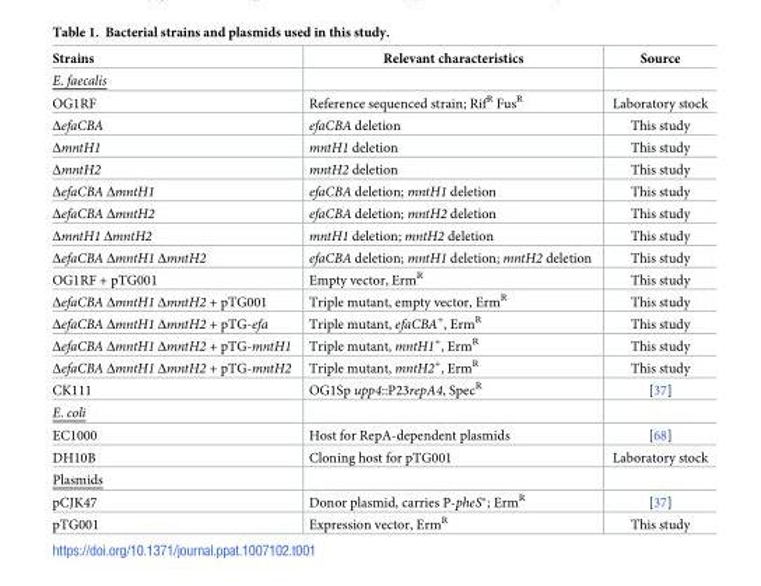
<table><thead><tr><td>Strains</td><td>Relevant characteristics</td><td>Source</td></tr></thead><tbody><tr><td colspan="3">E. faecalis</td></tr><tr><td>OG1RF</td><td>Reference sequenced strain; Rif<sup>R</sup> Fus<sup>R</sup></td><td>Laboratory stock</td></tr><tr><td>ΔefaCBA</td><td>efaCBA deletion</td><td>This study</td></tr><tr><td>ΔmntH1</td><td>mntH1 deletion</td><td>This study</td></tr><tr><td>ΔmntH2</td><td>mntH2 deletion</td><td>This study</td></tr><tr><td>ΔefaCBA ΔmntH1</td><td>efaCBA deletion; mntH1 deletion</td><td>This study</td></tr><tr><td>ΔefaCBA ΔmntH2</td><td>efaCBA deletion; mntH2 deletion</td><td>This study</td></tr><tr><td>ΔmntH1 ΔmntH2</td><td>mntH1 deletion; mntH2 deletion</td><td>This study</td></tr><tr><td>ΔefaCBA ΔmntH1 ΔmntH2</td><td>efaCBA deletion; mntH1 deletion; mntH2 deletion</td><td>This study</td></tr><tr><td>OG1RF + pTG001</td><td>Empty vector, Erm<sup>R</sup></td><td>This study</td></tr><tr><td>ΔefaCBA ΔmntH1 ΔmntH2 + pTG001</td><td>Triple mutant, empty vector, Erm<sup>R</sup></td><td>This study</td></tr><tr><td>ΔefaCBA ΔmntH1 ΔmntH2 + pTG-efa</td><td>Triple mutant, efaCBA<sup>+</sup>, Erm<sup>R</sup></td><td>This study</td></tr><tr><td>ΔefaCBA ΔmntH1 ΔmntH2 + pTG-mntH1</td><td>Triple mutant, mntH1<sup>+</sup>, Erm<sup>R</sup></td><td>This study</td></tr><tr><td>ΔefaCBA ΔmntH1 ΔmntH2 + pTG-mntH2</td><td>Triple mutant, mntH2<sup>+</sup>, Erm<sup>R</sup></td><td>This study</td></tr><tr><td>CK111</td><td>OG1Sp upp4::P23repA4, Spec<sup>R</sup></td><td>[37]</td></tr><tr><td colspan="3">E. coli</td></tr><tr><td>EC1000</td><td>Host for RepA-dependent plasmids</td><td>[68]</td></tr><tr><td>DH10B</td><td>Cloning host for pTG001</td><td>Laboratory stock</td></tr><tr><td colspan="3">Plasmids</td></tr><tr><td>pCJK47</td><td>Donor plasmid, carries P-pheS*; Erm<sup>R</sup></td><td>[37]</td></tr><tr><td>pTG001</td><td>Expression vector, Erm<sup>R</sup></td><td>This study</td></tr></tbody></table>